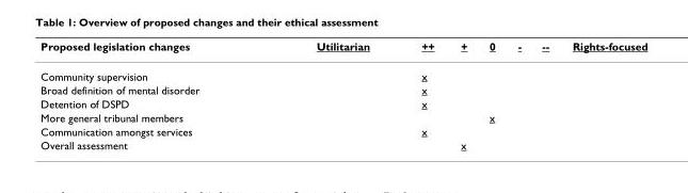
<table><thead><tr><td>Proposed legislation changes</td><td>Utilitarian</td><td>++</td><td>+</td><td>0</td><td>-</td><td>--</td><td>Rights-focused</td></tr></thead><tbody><tr><td>Community supervision</td><td></td><td>x</td><td></td><td></td><td></td><td></td><td></td></tr><tr><td>Broad definition of mental disorder</td><td></td><td>x</td><td></td><td></td><td></td><td></td><td></td></tr><tr><td>Detention of DSPD</td><td></td><td>x</td><td></td><td></td><td></td><td></td><td></td></tr><tr><td>More general tribunal members</td><td></td><td></td><td></td><td>x</td><td></td><td></td><td></td></tr><tr><td>Communication amongst services</td><td></td><td>x</td><td></td><td></td><td></td><td></td><td></td></tr><tr><td>Overall assessment</td><td></td><td></td><td>x</td><td></td><td></td><td></td><td></td></tr></tbody></table>